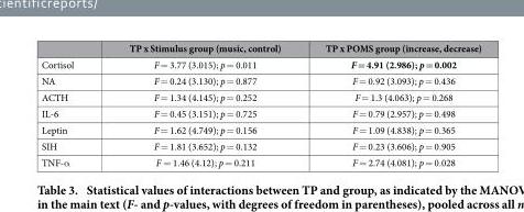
<table><thead><tr><td></td><td>TP x Stimulus group (music, control)</td><td>TP x POMS group (increase, decrease)</td></tr></thead><tbody><tr><td>Cortisol</td><td>F = 3.77 (3.015); p = 0.011</td><td>F = 4.91 (2.986); p = 0.002</td></tr><tr><td>NA</td><td>F = 0.24 (3.130); p = 0.877</td><td>F = 0.92 (3.093); p = 0.436</td></tr><tr><td>ACTH</td><td>F = 1.34 (4.145); p = 0.252</td><td>F = 1.3 (4.063); p = 0.268</td></tr><tr><td>IL-6</td><td>F = 0.45 (3.151); p = 0.725</td><td>F = 0.79 (2.957); p = 0.498</td></tr><tr><td>Leptin</td><td>F = 1.62 (4.749); p = 0.156</td><td>F = 1.09 (4.838); p = 0.365</td></tr><tr><td>SIH</td><td>F = 1.81 (3.652); p = 0.132</td><td>F = 0.23 (3.606); p = 0.905</td></tr><tr><td>TNF-α</td><td>F = 1.46 (4.12); p = 0.211</td><td>F = 2.74 (4.081); p = 0.028</td></tr></tbody></table>